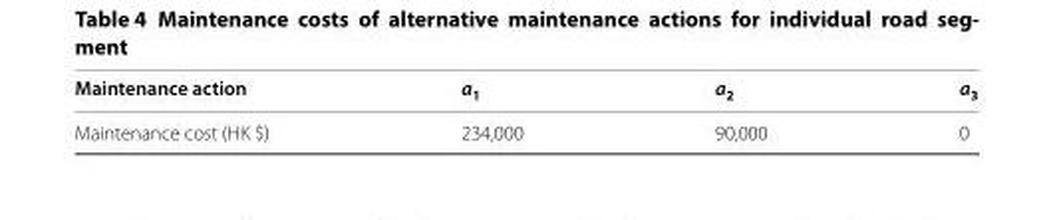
<table><thead><tr><td>Maintenance action</td><td>a<sub>1</sub></td><td>a<sub>2</sub></td><td>a<sub>3</sub></td></tr></thead><tbody><tr><td>Maintenance cost (HK $)</td><td>234,000</td><td>90,000</td><td>0</td></tr></tbody></table>